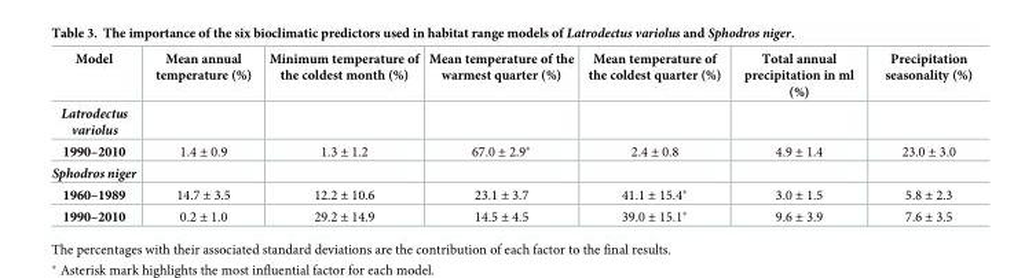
<table><thead><tr><td>Model</td><td>Mean annual temperature (%)</td><td>Minimum temperature of the coldest month (%)</td><td>Mean temperature of the warmest quarter (%)</td><td>Mean temperature of the coldest quarter (%)</td><td>Total annual precipitation in ml (%)</td><td>Precipitation seasonality (%)</td></tr></thead><tbody><tr><td colspan="7">Latrodectus variolus</td></tr><tr><td>1990–2010</td><td>1.4 ± 0.9</td><td>1.3 ± 1.2</td><td>67.0 ± 2.9*</td><td>2.4 ± 0.8</td><td>4.9 ± 1.4</td><td>23.0 ± 3.0</td></tr><tr><td colspan="7">Sphodros niger</td></tr><tr><td>1960–1989</td><td>14.7 ± 3.5</td><td>12.2 ± 10.6</td><td>23.1 ± 3.7</td><td>41.1 ± 15.4*</td><td>3.0 ± 1.5</td><td>5.8 ± 2.3</td></tr><tr><td>1990–2010</td><td>0.2 ± 1.0</td><td>29.2 ± 14.9</td><td>14.5 ± 4.5</td><td>39.0 ± 15.1*</td><td>9.6 ± 3.9</td><td>7.6 ± 3.5</td></tr></tbody></table>